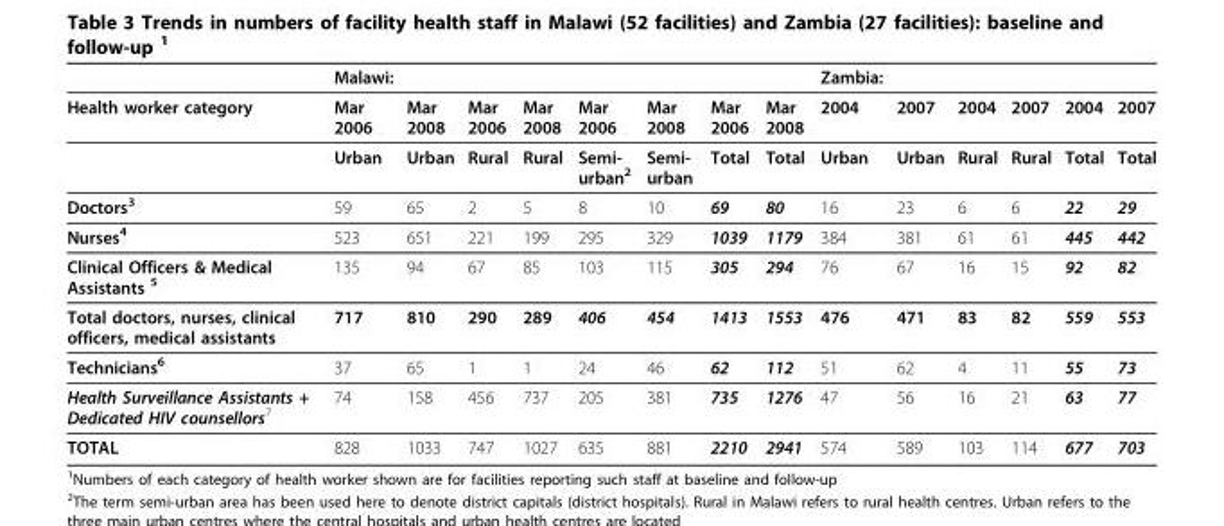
<table><thead><tr><td></td><td>Malawi:</td><td></td><td></td><td></td><td></td><td></td><td></td><td></td><td>Zambia:</td><td></td><td></td><td></td><td></td><td></td></tr></thead><tbody><tr><td rowspan="2">Health worker category</td><td>Mar 2006</td><td>Mar 2008</td><td>Mar 2006</td><td>Mar 2008</td><td>Mar 2006</td><td>Mar 2008</td><td>Mar 2006</td><td>Mar 2008</td><td>2004</td><td>2007</td><td>2004</td><td>2007</td><td>2004</td><td>2007</td></tr><tr><td>Urban</td><td>Urban</td><td>Rural</td><td>Rural</td><td>Semi- urban<sup>2</sup></td><td>Semi- urban</td><td>Total</td><td>Total</td><td>Urban</td><td>Urban</td><td>Rural</td><td>Rural</td><td>Total</td><td>Total</td></tr><tr><td>Doctors<sup>3</sup></td><td>59</td><td>65</td><td>2</td><td>5</td><td>8</td><td>10</td><td>69</td><td>80</td><td>16</td><td>23</td><td>6</td><td>6</td><td>22</td><td>29</td></tr><tr><td>Nurses<sup>4</sup></td><td>523</td><td>651</td><td>221</td><td>199</td><td>295</td><td>329</td><td>1039</td><td>1179</td><td>384</td><td>381</td><td>61</td><td>61</td><td>445</td><td>442</td></tr><tr><td>Clinical Officers &amp; Medical Assistants <sup>5</sup></td><td>135</td><td>94</td><td>67</td><td>85</td><td>103</td><td>115</td><td>305</td><td>294</td><td>76</td><td>67</td><td>16</td><td>15</td><td>92</td><td>82</td></tr><tr><td>Total doctors, nurses, clinical officers, medical assistants</td><td>717</td><td>810</td><td>290</td><td>289</td><td>406</td><td>454</td><td>1413</td><td>1553</td><td>476</td><td>471</td><td>83</td><td>82</td><td>559</td><td>553</td></tr><tr><td>Technicians<sup>6</sup></td><td>37</td><td>65</td><td>1</td><td>1</td><td>24</td><td>46</td><td>62</td><td>112</td><td>51</td><td>62</td><td>4</td><td>11</td><td>55</td><td>73</td></tr><tr><td>Health Surveillance Assistants + Dedicated HIV counsellors<sup>7</sup></td><td>74</td><td>158</td><td>456</td><td>737</td><td>205</td><td>381</td><td>735</td><td>1276</td><td>47</td><td>56</td><td>16</td><td>21</td><td>63</td><td>77</td></tr><tr><td>TOTAL</td><td>828</td><td>1033</td><td>747</td><td>1027</td><td>635</td><td>881</td><td>2210</td><td>2941</td><td>574</td><td>589</td><td>103</td><td>114</td><td>677</td><td>703</td></tr></tbody></table>